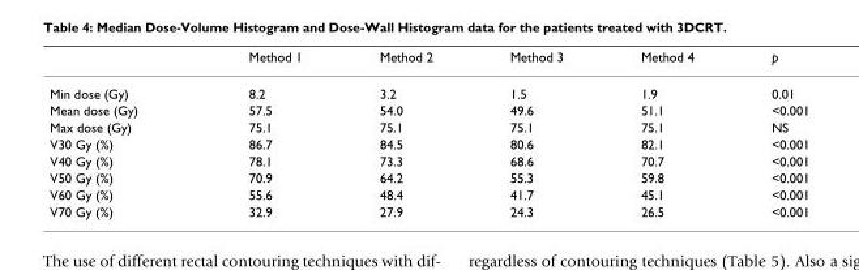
<table><thead><tr><td></td><td>Method 1</td><td>Method 2</td><td>Method 3</td><td>Method 4</td><td>p</td></tr></thead><tbody><tr><td>Min dose (Gy)</td><td>8.2</td><td>3.2</td><td>1.5</td><td>1.9</td><td>0.01</td></tr><tr><td>Mean dose (Gy)</td><td>57.5</td><td>54.0</td><td>49.6</td><td>51.1</td><td>&lt;0.001</td></tr><tr><td>Max dose (Gy)</td><td>75.1</td><td>75.1</td><td>75.1</td><td>75.1</td><td>NS</td></tr><tr><td>V30 Gy (%)</td><td>86.7</td><td>84.5</td><td>80.6</td><td>82.1</td><td>&lt;0.001</td></tr><tr><td>V40 Gy (%)</td><td>78.1</td><td>73.3</td><td>68.6</td><td>70.7</td><td>&lt;0.001</td></tr><tr><td>V50 Gy (%)</td><td>70.9</td><td>64.2</td><td>55.3</td><td>59.8</td><td>&lt;0.001</td></tr><tr><td>V60 Gy (%)</td><td>55.6</td><td>48.4</td><td>41.7</td><td>45.1</td><td>&lt;0.001</td></tr><tr><td>V70 Gy (%)</td><td>32.9</td><td>27.9</td><td>24.3</td><td>26.5</td><td>&lt;0.001</td></tr></tbody></table>